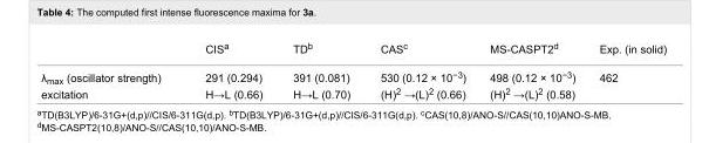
<table><thead><tr><td></td><td>CIS<sup>a</sup></td><td>TD<sup>b</sup></td><td>CAS<sup>c</sup></td><td>MS-CASPT2<sup>d</sup></td><td>Exp. (in solid)</td></tr></thead><tbody><tr><td>λ<sub>max</sub> (oscillator strength)</td><td>291 (0.294)</td><td>391 (0.081)</td><td>530 (0.12 × 10<sup>−3</sup>)</td><td>498 (0.12 × 10<sup>−3</sup>)</td><td>462</td></tr><tr><td>excitation</td><td>H→L (0.66)</td><td>H→L (0.70)</td><td>(H)<sup>2</sup> →(L)<sup>2</sup> (0.66)</td><td>(H)<sup>2</sup> →(L)<sup>2</sup> (0.58)</td><td></td></tr></tbody></table>